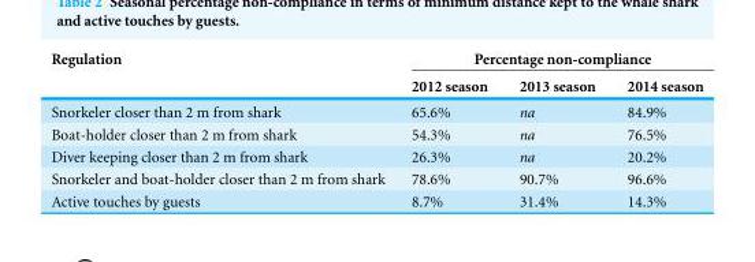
<table><thead><tr><td rowspan="2">Regulation</td><td colspan="3">Percentage non-compliance</td></tr><tr><td>2012 season</td><td>2013 season</td><td>2014 season</td></tr></thead><tbody><tr><td>Snorkeler closer than 2 m from shark</td><td>65.6%</td><td>na</td><td>84.9%</td></tr><tr><td>Boat-holder closer than 2 m from shark</td><td>54.3%</td><td>na</td><td>76.5%</td></tr><tr><td>Diver keeping closer than 2 m from shark</td><td>26.3%</td><td>na</td><td>20.2%</td></tr><tr><td>Snorkeler and boat-holder closer than 2 m from shark</td><td>78.6%</td><td>90.7%</td><td>96.6%</td></tr><tr><td>Active touches by guests</td><td>8.7%</td><td>31.4%</td><td>14.3%</td></tr></tbody></table>